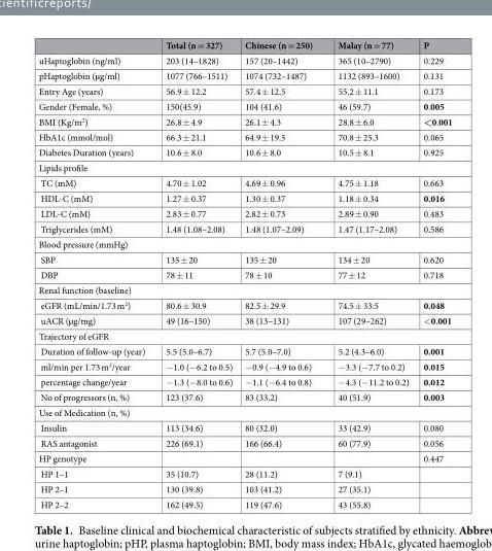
<table><thead><tr><td></td><td>Total (n = 327)</td><td>Chinese (n = 250)</td><td>Malay (n = 77)</td><td>P</td></tr></thead><tbody><tr><td>uHaptoglobin (ng/ml)</td><td>203 (14–1828)</td><td>157 (20–1442)</td><td>365 (10–2790)</td><td>0.229</td></tr><tr><td>pHaptoglobin (µg/ml)</td><td>1077 (766–1511)</td><td>1074 (732–1487)</td><td>1132 (893–1600)</td><td>0.131</td></tr><tr><td>Entry Age (years)</td><td>56.9 ± 12.2</td><td>57.4 ± 12.5</td><td>55.2 ± 11.1</td><td>0.173</td></tr><tr><td>Gender (Female, %)</td><td>150(45.9)</td><td>104 (41.6)</td><td>46 (59.7)</td><td>0.005</td></tr><tr><td>BMI (Kg/m<sup>2</sup>)</td><td>26.8 ± 4.9</td><td>26.1 ± 4.3</td><td>28.8 ± 6.0</td><td>&lt;0.001</td></tr><tr><td>HbA1c (mmol/mol)</td><td>66.3 ± 21.1</td><td>64.9 ± 19.5</td><td>70.8 ± 25.3</td><td>0.065</td></tr><tr><td>Diabetes Duration (years)</td><td>10.6 ± 8.0</td><td>10.6 ± 8.0</td><td>10.5 ± 8.1</td><td>0.925</td></tr><tr><td colspan="5">Lipids profile</td></tr><tr><td>TC (mM)</td><td>4.70 ± 1.02</td><td>4.69 ± 0.96</td><td>4.75 ± 1.18</td><td>0.663</td></tr><tr><td>HDL-C (mM)</td><td>1.27 ± 0.37</td><td>1.30 ± 0.37</td><td>1.18 ± 0.34</td><td>0.016</td></tr><tr><td>LDL-C (mM)</td><td>2.83 ± 0.77</td><td>2.82 ± 0.73</td><td>2.89 ± 0.90</td><td>0.483</td></tr><tr><td>Triglycerides (mM)</td><td>1.48 (1.08–2.08)</td><td>1.48 (1.07–2.09)</td><td>1.47 (1.17–2.08)</td><td>0.586</td></tr><tr><td colspan="5">Blood pressure (mmHg)</td></tr><tr><td>SBP</td><td>135 ± 20</td><td>135 ± 20</td><td>134 ± 20</td><td>0.620</td></tr><tr><td>DBP</td><td>78 ± 11</td><td>78 ± 10</td><td>77 ± 12</td><td>0.718</td></tr><tr><td colspan="5">Renal function (baseline)</td></tr><tr><td>eGFR (mL/min/1.73 m<sup>2</sup>)</td><td>80.6 ± 30.9</td><td>82.5 ± 29.9</td><td>74.5 ± 33.5</td><td>0.048</td></tr><tr><td>uACR (µg/mg)</td><td>49 (16–150)</td><td>38 (13–131)</td><td>107 (29–262)</td><td>&lt;0.001</td></tr><tr><td colspan="5">Trajectory of eGFR</td></tr><tr><td>Duration of follow-up (year)</td><td>5.5 (5.0–6.7)</td><td>5.7 (5.0–7.0)</td><td>5.2 (4.3–6.0)</td><td>0.001</td></tr><tr><td>ml/min per 1.73 m<sup>2</sup>/year</td><td>−1.0 (−6.2 to 0.5)</td><td>−0.9 (−4.9 to 0.6)</td><td>−3.3 (−7.7 to 0.2)</td><td>0.015</td></tr><tr><td>percentage change/year</td><td>−1.3 (−8.0 to 0.6)</td><td>−1.1 (−6.4 to 0.8)</td><td>−4.3 (−11.2 to 0.2)</td><td>0.012</td></tr><tr><td>No of progressors (n, %)</td><td>123 (37.6)</td><td>83 (33.2)</td><td>40 (51.9)</td><td>0.003</td></tr><tr><td colspan="5">Use of Medication (n, %)</td></tr><tr><td>Insulin</td><td>113 (34.6)</td><td>80 (32.0)</td><td>33 (42.9)</td><td>0.080</td></tr><tr><td>RAS antagonist</td><td>226 (69.1)</td><td>166 (66.4)</td><td>60 (77.9)</td><td>0.056</td></tr><tr><td>HP genotype</td><td></td><td></td><td></td><td>0.447</td></tr><tr><td>HP 1–1</td><td>35 (10.7)</td><td>28 (11.2)</td><td>7 (9.1)</td><td></td></tr><tr><td>HP 2–1</td><td>130 (39.8)</td><td>103 (41.2)</td><td>27 (35.1)</td><td></td></tr><tr><td>HP 2–2</td><td>162 (49.5)</td><td>119 (47.6)</td><td>43 (55.8)</td><td></td></tr></tbody></table>